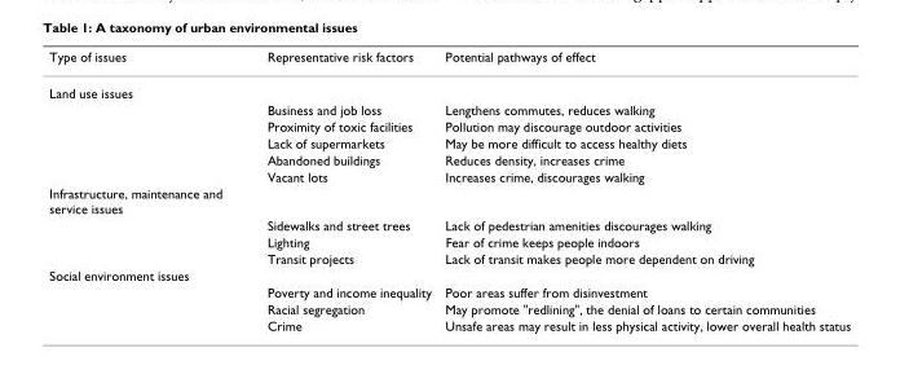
<table><thead><tr><td>Type of issues</td><td>Representative risk factors</td><td>Potential pathways of effect</td></tr></thead><tbody><tr><td colspan="3">Land use issues</td></tr><tr><td></td><td>Business and job loss</td><td>Lengthens commutes, reduces walking</td></tr><tr><td></td><td>Proximity of toxic facilities</td><td>Pollution may discourage outdoor activities</td></tr><tr><td></td><td>Lack of supermarkets</td><td>May be more difficult to access healthy diets</td></tr><tr><td></td><td>Abandoned buildings</td><td>Reduces density, increases crime</td></tr><tr><td></td><td>Vacant lots</td><td>Increases crime, discourages walking</td></tr><tr><td colspan="3">Infrastructure, maintenance and service issues</td></tr><tr><td></td><td>Sidewalks and street trees</td><td>Lack of pedestrian amenities discourages walking</td></tr><tr><td></td><td>Lighting</td><td>Fear of crime keeps people indoors</td></tr><tr><td></td><td>Transit projects</td><td>Lack of transit makes people more dependent on driving</td></tr><tr><td colspan="3">Social environment issues</td></tr><tr><td></td><td>Poverty and income inequality</td><td>Poor areas suffer from disinvestment</td></tr><tr><td></td><td>Racial segregation</td><td>May promote &quot;redlining&quot;, the denial of loans to certain communities</td></tr><tr><td></td><td>Crime</td><td>Unsafe areas may result in less physical activity, lower overall health status</td></tr></tbody></table>